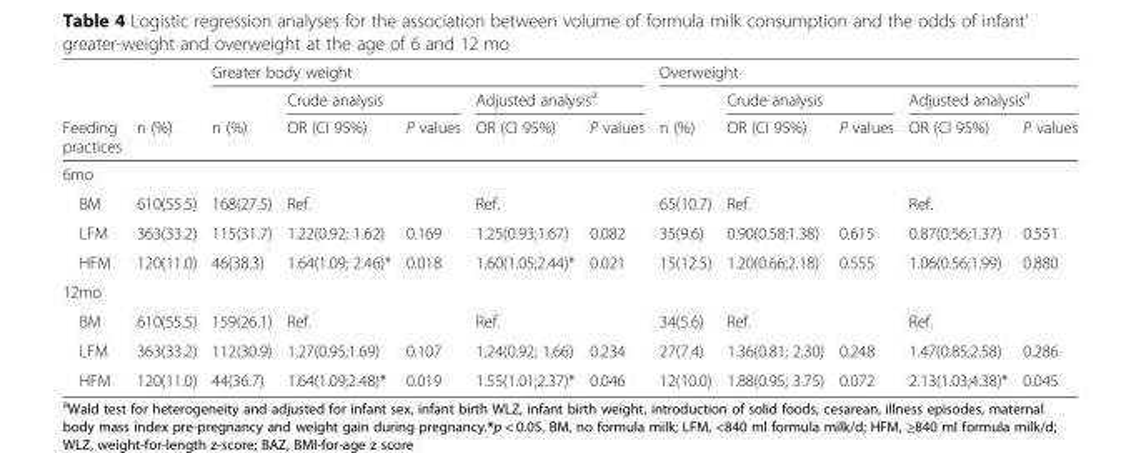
<table><thead><tr><td rowspan="3">Feeding practices</td><td rowspan="3">n (%)</td><td colspan="5">Greater body weight</td><td colspan="5">Overweight</td></tr><tr><td rowspan="2">n (%)</td><td colspan="2">Crude analysis</td><td colspan="2">Adjusted analysis<sup>a</sup></td><td rowspan="2">n (%)</td><td colspan="2">Crude analysis</td><td colspan="2">Adjusted analysis<sup>a</sup></td></tr><tr><td>OR (CI 95%)</td><td>P values</td><td>OR (CI 95%)</td><td>P values</td><td>OR (CI 95%)</td><td>P values</td><td>OR (CI 95%)</td><td>P values</td></tr></thead><tbody><tr><td colspan="12">6mo</td></tr><tr><td>BM</td><td>610(55.5)</td><td>168(27.5)</td><td>Ref.</td><td></td><td>Ref.</td><td></td><td>65(10.7)</td><td>Ref.</td><td></td><td>Ref.</td><td></td></tr><tr><td>LFM</td><td>363(33.2)</td><td>115(31.7)</td><td>1.22(0.92; 1.62)</td><td>0.169</td><td>1.25(0.93;1.67)</td><td>0.082</td><td>35(9.6)</td><td>0.90(0.58;1.38)</td><td>0.615</td><td>0.87(0.56;1.37)</td><td>0.551</td></tr><tr><td>HFM</td><td>120(11.0)</td><td>46(38.3)</td><td>1.64(1.09; 2.46)*</td><td>0.018</td><td>1.60(1.05;2.44)*</td><td>0.021</td><td>15(12.5)</td><td>1.20(0.66;2.18)</td><td>0.555</td><td>1.06(0.56;1.99)</td><td>0.880</td></tr><tr><td colspan="12">12mo</td></tr><tr><td>BM</td><td>610(55.5)</td><td>159(26.1)</td><td>Ref.</td><td></td><td>Ref.</td><td></td><td>34(5.6)</td><td>Ref.</td><td></td><td>Ref.</td><td></td></tr><tr><td>LFM</td><td>363(33.2)</td><td>112(30.9)</td><td>1.27(0.95;1.69)</td><td>0.107</td><td>1.24(0.92; 1.66)</td><td>0.234</td><td>27(7.4)</td><td>1.36(0.81; 2.30)</td><td>0.248</td><td>1.47(0.85;2.58)</td><td>0.286</td></tr><tr><td>HFM</td><td>120(11.0)</td><td>44(36.7)</td><td>1.64(1.09;2.48)*</td><td>0.019</td><td>1.55(1.01;2.37)*</td><td>0.046</td><td>12(10.0)</td><td>1.88(0.95; 3.75)</td><td>0.072</td><td>2.13(1.03;4.38)*</td><td>0.045</td></tr></tbody></table>